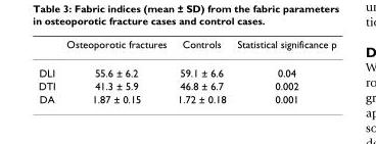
<table><thead><tr><td></td><td>Osteoporotic fractures</td><td>Controls</td><td>Statistical significance p</td></tr></thead><tbody><tr><td>DLI</td><td>55.6 ± 6.2</td><td>59.1 ± 6.6</td><td>0.04</td></tr><tr><td>DTI</td><td>41.3 ± 5.9</td><td>46.8 ± 6.7</td><td>0.002</td></tr><tr><td>DA</td><td>1.87 ± 0.15</td><td>1.72 ± 0.18</td><td>0.001</td></tr></tbody></table>